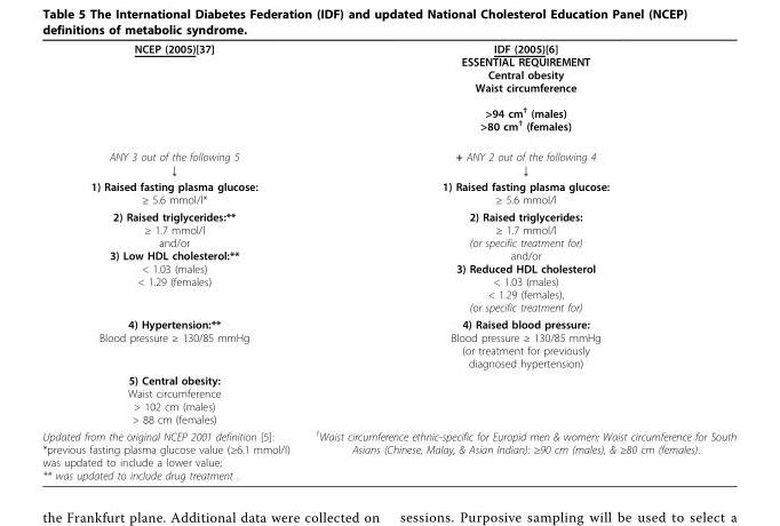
<table><tbody><tr><td>NCEP (2005)[37]</td><td>IDF (2005)[6] ESSENTIAL REQUIREMENT Central obesity Waist circumference &gt;94 cm<sup>†</sup> (males) &gt;80 cm<sup>†</sup> (females)</td></tr><tr><td>ANY 3 out of the following 5 ↓</td><td>+ ANY 2 out of the following 4 ↓</td></tr><tr><td>1) Raised fasting plasma glucose: ≥ 5.6 mmol/l*</td><td>1) Raised fasting plasma glucose: ≥ 5.6 mmol/l</td></tr><tr><td>2) Raised triglycerides:** ≥ 1.7 mmol/l and/or 3) Low HDL cholesterol:** &lt; 1.03 (males) &lt; 1.29 (females)</td><td>2) Raised triglycerides: ≥ 1.7 mmol/l (or specific treatment for) and/or 3) Reduced HDL cholesterol &lt; 1.03 (males) &lt; 1.29 (females), (or specific treatment for)</td></tr><tr><td>4) Hypertension:** Blood pressure ≥ 130/85 mmHg</td><td>4) Raised blood pressure: Blood pressure ≥ 130/85 mmHg (or treatment for previously diagnosed hypertension)</td></tr><tr><td colspan="2">5) Central obesity: Waist circumference &gt; 102 cm (males) &gt; 88 cm (females)</td></tr><tr><td>Updated from the original NCEP 2001 definition [5]: *previous fasting plasma glucose value (≥6.1 mmol/l) was updated to include a lower value; ** was updated to include drug treatment .</td><td><sup>†</sup>Waist circumference ethnic-specific for Europid men &amp; women; Waist circumference for South Asians (Chinese, Malay, &amp; Asian Indian): ≥90 cm (males), &amp; ≥80 cm (females).</td></tr></tbody></table>